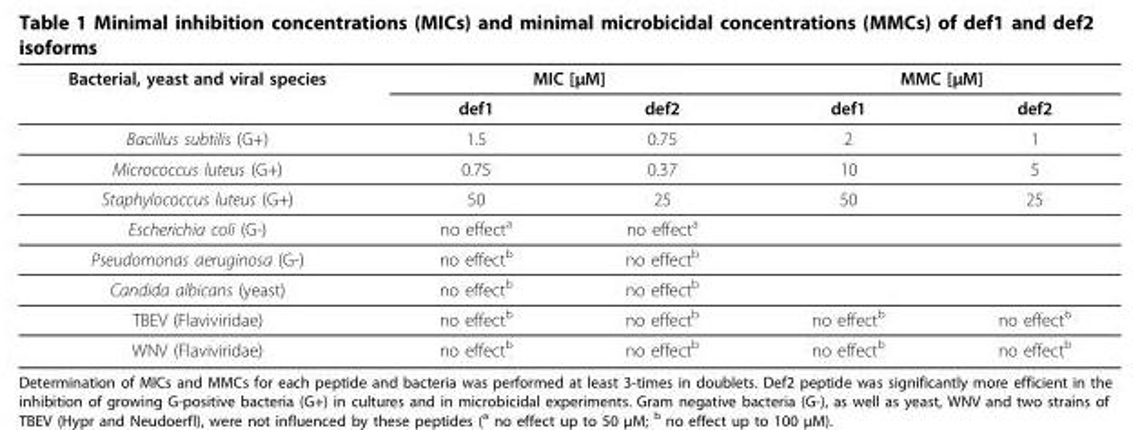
<table><thead><tr><td rowspan="2">Bacterial, yeast and viral species</td><td colspan="2">MIC [μM]</td><td colspan="2">MMC [μM]</td></tr><tr><td>def1</td><td>def2</td><td>def1</td><td>def2</td></tr></thead><tbody><tr><td>Bacillus subtilis (G+)</td><td>1.5</td><td>0.75</td><td>2</td><td>1</td></tr><tr><td>Micrococcus luteus (G+)</td><td>0.75</td><td>0.37</td><td>10</td><td>5</td></tr><tr><td>Staphylococcus luteus (G+)</td><td>50</td><td>25</td><td>50</td><td>25</td></tr><tr><td>Escherichia coli (G-)</td><td>no effect<sup>a</sup></td><td>no effect<sup>a</sup></td><td></td><td></td></tr><tr><td>Pseudomonas aeruginosa (G-)</td><td>no effect<sup>b</sup></td><td>no effect<sup>b</sup></td><td></td><td></td></tr><tr><td>Candida albicans (yeast)</td><td>no effect<sup>b</sup></td><td>no effect<sup>b</sup></td><td></td><td></td></tr><tr><td>TBEV (Flaviviridae)</td><td>no effect<sup>b</sup></td><td>no effect<sup>b</sup></td><td>no effect<sup>b</sup></td><td>no effect<sup>b</sup></td></tr><tr><td>WNV (Flaviviridae)</td><td>no effect<sup>b</sup></td><td>no effect<sup>b</sup></td><td>no effect<sup>b</sup></td><td>no effect<sup>b</sup></td></tr></tbody></table>